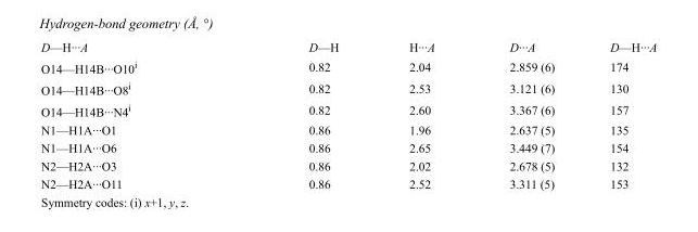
<table><tbody><tr><td>D—H···A</td><td>D—H</td><td>H···A</td><td>D···A</td><td>D—H···A</td></tr><tr><td>O14—H14B···O10<sup>i</sup></td><td>0.82</td><td>2.04</td><td>2.859 (6)</td><td>174</td></tr><tr><td>O14—H14B···O8<sup>i</sup></td><td>0.82</td><td>2.53</td><td>3.121 (6)</td><td>130</td></tr><tr><td>O14—H14B···N4<sup>i</sup></td><td>0.82</td><td>2.60</td><td>3.367 (6)</td><td>157</td></tr><tr><td>N1—H1A···O1</td><td>0.86</td><td>1.96</td><td>2.637 (5)</td><td>135</td></tr><tr><td>N1—H1A···O6</td><td>0.86</td><td>2.65</td><td>3.449 (7)</td><td>154</td></tr><tr><td>N2—H2A···O3</td><td>0.86</td><td>2.02</td><td>2.678 (5)</td><td>132</td></tr><tr><td>N2—H2A···O11</td><td>0.86</td><td>2.52</td><td>3.311 (5)</td><td>153</td></tr></tbody></table>